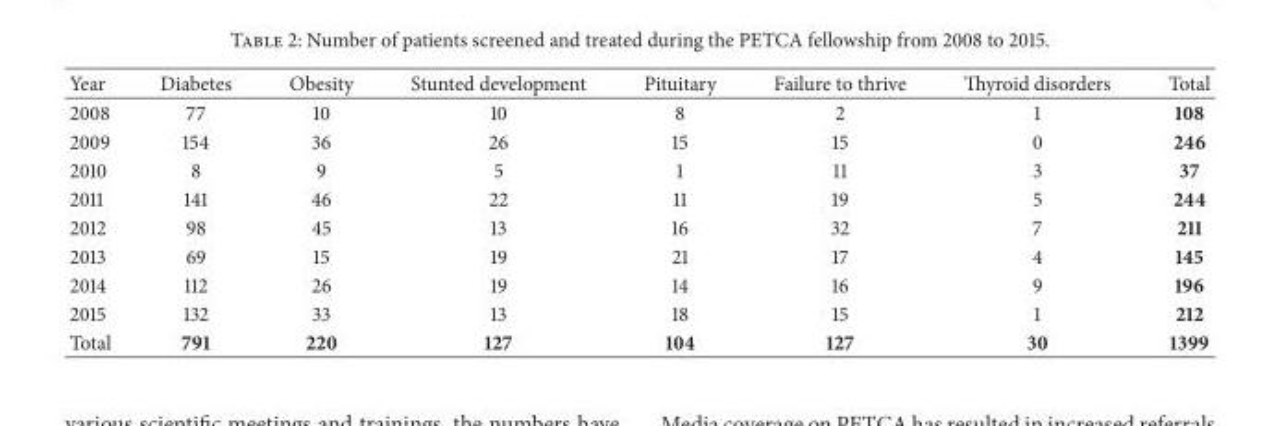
<table><thead><tr><td>Year</td><td>Diabetes</td><td>Obesity</td><td>Stunted development</td><td>Pituitary</td><td>Failure to thrive</td><td>Thyroid disorders</td><td>Total</td></tr></thead><tbody><tr><td>2008</td><td>77</td><td>10</td><td>10</td><td>8</td><td>2</td><td>1</td><td>108</td></tr><tr><td>2009</td><td>154</td><td>36</td><td>26</td><td>15</td><td>15</td><td>0</td><td>246</td></tr><tr><td>2010</td><td>8</td><td>9</td><td>5</td><td>1</td><td>11</td><td>3</td><td>37</td></tr><tr><td>2011</td><td>141</td><td>46</td><td>22</td><td>11</td><td>19</td><td>5</td><td>244</td></tr><tr><td>2012</td><td>98</td><td>45</td><td>13</td><td>16</td><td>32</td><td>7</td><td>211</td></tr><tr><td>2013</td><td>69</td><td>15</td><td>19</td><td>21</td><td>17</td><td>4</td><td>145</td></tr><tr><td>2014</td><td>112</td><td>26</td><td>19</td><td>14</td><td>16</td><td>9</td><td>196</td></tr><tr><td>2015</td><td>132</td><td>33</td><td>13</td><td>18</td><td>15</td><td>1</td><td>212</td></tr><tr><td>Total</td><td>791</td><td>220</td><td>127</td><td>104</td><td>127</td><td>30</td><td>1399</td></tr></tbody></table>